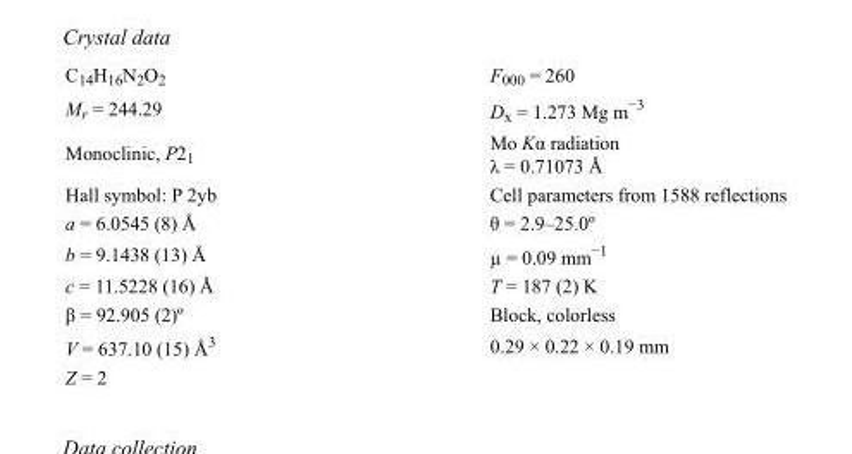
<table><tbody><tr><td>C<sub>14</sub>H<sub>16</sub>N<sub>2</sub>O<sub>2</sub></td><td>F<sub>000</sub> = 260</td></tr><tr><td>M<sub>r</sub> = 244.29</td><td>D<sub>x</sub> = 1.273 Mg m<sup>−3</sup></td></tr><tr><td>Monoclinic, P2<sub>1</sub></td><td>Mo Kα radiation λ = 0.71073 Å</td></tr><tr><td>Hall symbol: P 2yb</td><td>Cell parameters from 1588 reflections</td></tr><tr><td>a = 6.0545 (8) Å</td><td>θ = 2.9–25.0º</td></tr><tr><td>b = 9.1438 (13) Å</td><td>µ = 0.09 mm<sup>−1</sup></td></tr><tr><td>c = 11.5228 (16) Å</td><td>T = 187 (2) K</td></tr><tr><td>β = 92.905 (2)º</td><td>Block, colorless</td></tr><tr><td>V = 637.10 (15) Å<sup>3</sup></td><td>0.29 × 0.22 × 0.19 mm</td></tr><tr><td>Z = 2</td><td></td></tr></tbody></table>